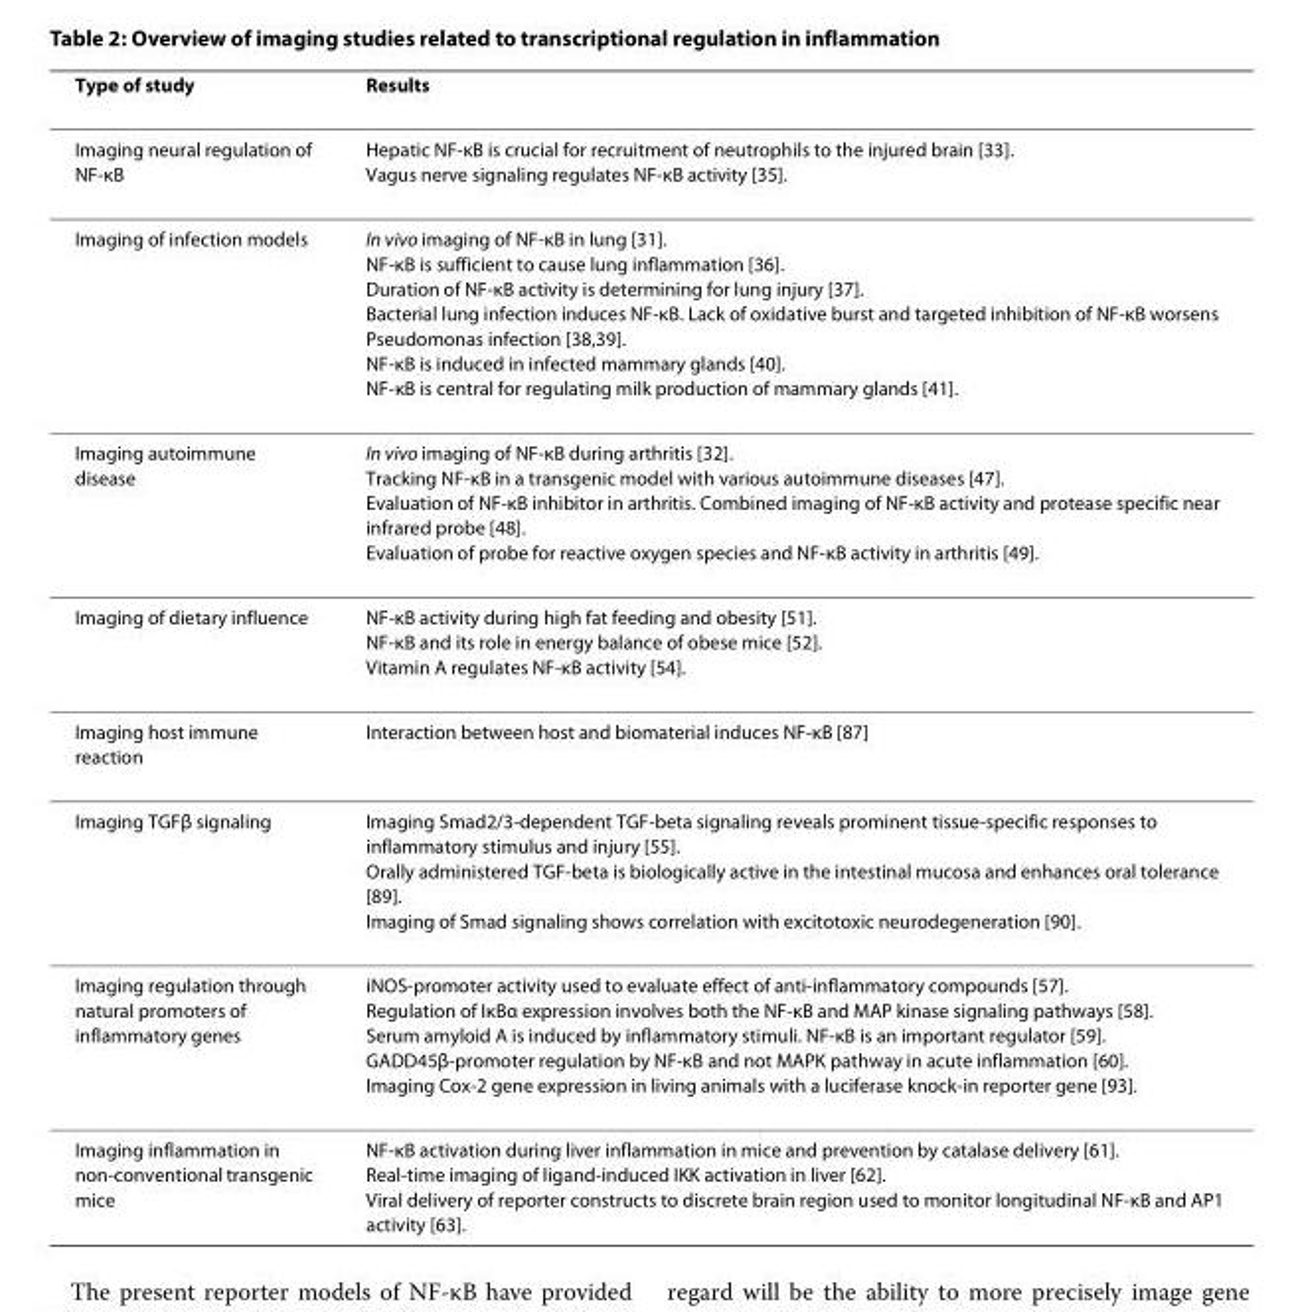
<table><thead><tr><td>Type of study</td><td>Results</td></tr></thead><tbody><tr><td>Imaging neural regulation of NF-κB</td><td>Hepatic NF-κB is crucial for recruitment of neutrophils to the injured brain [33]. Vagus nerve signaling regulates NF-κB activity [35].</td></tr><tr><td>Imaging of infection models</td><td>In vivo imaging of NF-κB in lung [31]. NF-κB is sufficient to cause lung inflammation [36]. Duration of NF-κB activity is determining for lung injury [37]. Bacterial lung infection induces NF-κB. Lack of oxidative burst and targeted inhibition of NF-κB worsens Pseudomonas infection [38,39]. NF-κB is induced in infected mammary glands [40]. NF-κB is central for regulating milk production of mammary glands [41].</td></tr><tr><td>Imaging autoimmune disease</td><td>In vivo imaging of NF-κB during arthritis [32]. Tracking NF-κB in a transgenic model with various autoimmune diseases [47]. Evaluation of NF-κB inhibitor in arthritis. Combined imaging of NF-κB activity and protease specific near infrared probe [48]. Evaluation of probe for reactive oxygen species and NF-κB activity in arthritis [49].</td></tr><tr><td>Imaging of dietary influence</td><td>NF-κB activity during high fat feeding and obesity [51]. NF-κB and its role in energy balance of obese mice [52]. Vitamin A regulates NF-κB activity [54].</td></tr><tr><td>Imaging host immune reaction</td><td>Interaction between host and biomaterial induces NF-κB [87]</td></tr><tr><td>Imaging TGFβ signaling</td><td>Imaging Smad2/3-dependent TGF-beta signaling reveals prominent tissue-specific responses to inflammatory stimulus and injury [55]. Orally administered TGF-beta is biologically active in the intestinal mucosa and enhances oral tolerance [89]. Imaging of Smad signaling shows correlation with excitotoxic neurodegeneration [90].</td></tr><tr><td>Imaging regulation through natural promoters of inflammatory genes</td><td>iNOS-promoter activity used to evaluate effect of anti-inflammatory compounds [57]. Regulation of IκBα expression involves both the NF-κB and MAP kinase signaling pathways [58]. Serum amyloid A is induced by inflammatory stimuli. NF-κB is an important regulator [59]. GADD45β-promoter regulation by NF-κB and not MAPK pathway in acute inflammation [60]. Imaging Cox-2 gene expression in living animals with a luciferase knock-in reporter gene [93].</td></tr><tr><td>Imaging inflammation in non-conventional transgenic mice</td><td>NF-κB activation during liver inflammation in mice and prevention by catalase delivery [61]. Real-time imaging of ligand-induced IKK activation in liver [62]. Viral delivery of reporter constructs to discrete brain region used to monitor longitudinal NF-κB and AP1 activity [63].</td></tr></tbody></table>